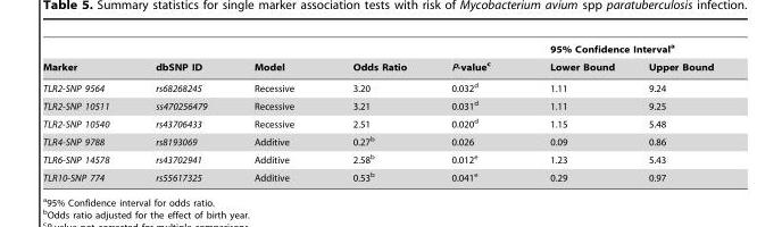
<table><thead><tr><td rowspan="2">Marker</td><td rowspan="2">dbSNP ID</td><td rowspan="2">Model</td><td rowspan="2">Odds Ratio</td><td rowspan="2">P-value<sup>c</sup></td><td colspan="2">95% Confidence Interval<sup>a</sup></td></tr><tr><td>Lower Bound</td><td>Upper Bound</td></tr></thead><tbody><tr><td>TLR2-SNP 9564</td><td>rs68268245</td><td>Recessive</td><td>3.20</td><td>0.032<sup>d</sup></td><td>1.11</td><td>9.24</td></tr><tr><td>TLR2-SNP 10511</td><td>ss470256479</td><td>Recessive</td><td>3.21</td><td>0.031<sup>d</sup></td><td>1.11</td><td>9.25</td></tr><tr><td>TLR2-SNP 10540</td><td>rs43706433</td><td>Recessive</td><td>2.51</td><td>0.020<sup>d</sup></td><td>1.15</td><td>5.48</td></tr><tr><td>TLR4-SNP 9788</td><td>rs8193069</td><td>Additive</td><td>0.27<sup>b</sup></td><td>0.026</td><td>0.09</td><td>0.86</td></tr><tr><td>TLR6-SNP 14578</td><td>rs43702941</td><td>Additive</td><td>2.58<sup>b</sup></td><td>0.012<sup>e</sup></td><td>1.23</td><td>5.43</td></tr><tr><td>TLR10-SNP 774</td><td>rs55617325</td><td>Additive</td><td>0.53<sup>b</sup></td><td>0.041<sup>e</sup></td><td>0.29</td><td>0.97</td></tr></tbody></table>